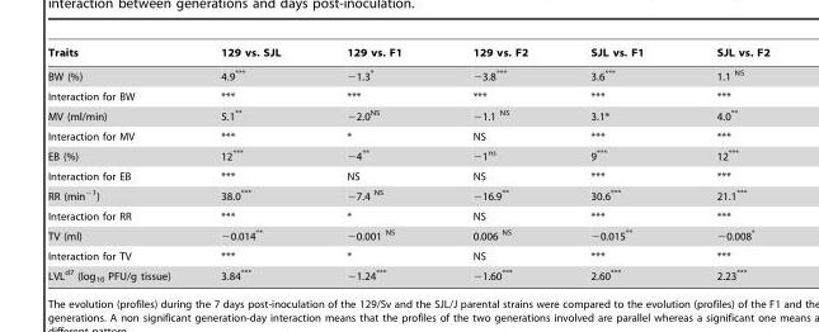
<table><thead><tr><td>Traits</td><td>129 vs. SJL</td><td>129 vs. F1</td><td>129 vs. F2</td><td>SJL vs. F1</td><td>SJL vs. F2</td></tr></thead><tbody><tr><td>BW (%)</td><td>4.9***</td><td>−1.3*</td><td>−3.8***</td><td>3.6***</td><td>1.1 <sup>NS</sup></td></tr><tr><td>Interaction for BW</td><td>***</td><td>***</td><td>***</td><td>***</td><td>***</td></tr><tr><td>MV (ml/min)</td><td>5.1**</td><td>−2.0<sup>NS</sup></td><td>−1.1 <sup>NS</sup></td><td>3.1*</td><td>4.0**</td></tr><tr><td>Interaction for MV</td><td>***</td><td>*</td><td>NS</td><td>***</td><td>***</td></tr><tr><td>EB (%)</td><td>12***</td><td>−4**</td><td>−1<sup>ns</sup></td><td>9***</td><td>12***</td></tr><tr><td>Interaction for EB</td><td>***</td><td>NS</td><td>NS</td><td>***</td><td>***</td></tr><tr><td>RR (min<sup>−1</sup>)</td><td>38.0***</td><td>−7.4 <sup>NS</sup></td><td>−16.9**</td><td>30.6***</td><td>21.1***</td></tr><tr><td>Interaction for RR</td><td>***</td><td>*</td><td>NS</td><td>***</td><td>***</td></tr><tr><td>TV (ml)</td><td>−0.014**</td><td>−0.001 <sup>NS</sup></td><td>0.006 <sup>NS</sup></td><td>−0.015**</td><td>−0.008*</td></tr><tr><td>Interaction for TV</td><td>***</td><td>*</td><td>NS</td><td>***</td><td>***</td></tr><tr><td>LVL<sup>d7</sup> (log<sub>10</sub> PFU/g tissue)</td><td>3.84***</td><td>−1.24***</td><td>−1.60***</td><td>2.60***</td><td>2.23***</td></tr></tbody></table>